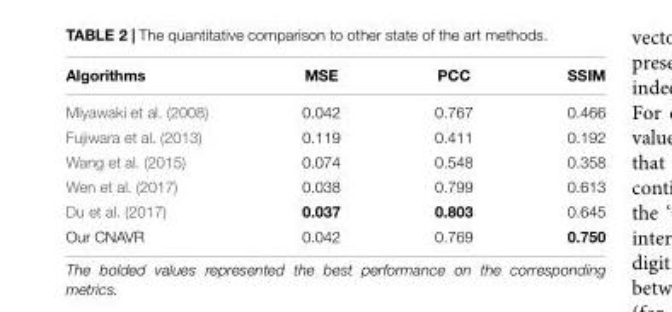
<table><thead><tr><td>Algorithms</td><td>MSE</td><td>PCC</td><td>SSIM</td></tr></thead><tbody><tr><td>Miyawaki et al. (2008)</td><td>0.042</td><td>0.767</td><td>0.466</td></tr><tr><td>Fujiwara et al. (2013)</td><td>0.119</td><td>0.411</td><td>0.192</td></tr><tr><td>Wang et al. (2015)</td><td>0.074</td><td>0.548</td><td>0.358</td></tr><tr><td>Wen et al. (2017)</td><td>0.038</td><td>0.799</td><td>0.613</td></tr><tr><td>Du et al. (2017)</td><td>0.037</td><td>0.803</td><td>0.645</td></tr><tr><td>Our CNAVR</td><td>0.042</td><td>0.769</td><td>0.750</td></tr></tbody></table>